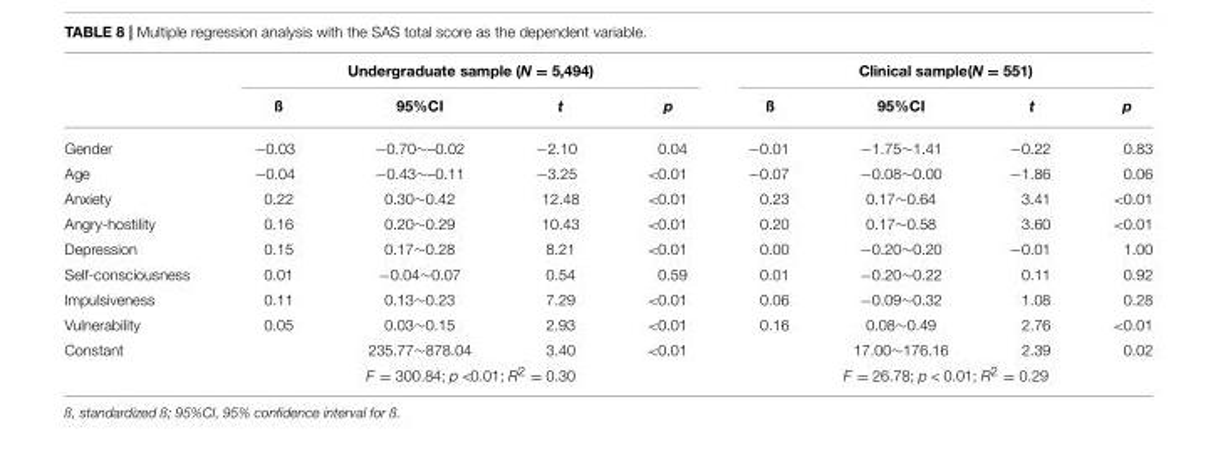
<table><thead><tr><td rowspan="2"></td><td colspan="4">Undergraduate sample (N = 5,494)</td><td colspan="4">Clinical sample(N = 551)</td></tr><tr><td>ß</td><td>95%CI</td><td>t</td><td>p</td><td>ß</td><td>95%CI</td><td>t</td><td>p</td></tr></thead><tbody><tr><td>Gender</td><td>−0.03</td><td>−0.70∼–0.02</td><td>−2.10</td><td>0.04</td><td>−0.01</td><td>−1.75∼1.41</td><td>−0.22</td><td>0.83</td></tr><tr><td>Age</td><td>−0.04</td><td>−0.43∼–0.11</td><td>−3.25</td><td>&lt;0.01</td><td>−0.07</td><td>−0.08∼0.00</td><td>−1.86</td><td>0.06</td></tr><tr><td>Anxiety</td><td>0.22</td><td>0.30∼0.42</td><td>12.48</td><td>&lt;0.01</td><td>0.23</td><td>0.17∼0.64</td><td>3.41</td><td>&lt;0.01</td></tr><tr><td>Angry-hostility</td><td>0.16</td><td>0.20∼0.29</td><td>10.43</td><td>&lt;0.01</td><td>0.20</td><td>0.17∼0.58</td><td>3.60</td><td>&lt;0.01</td></tr><tr><td>Depression</td><td>0.15</td><td>0.17∼0.28</td><td>8.21</td><td>&lt;0.01</td><td>0.00</td><td>−0.20∼0.20</td><td>−0.01</td><td>1.00</td></tr><tr><td>Self-consciousness</td><td>0.01</td><td>−0.04∼0.07</td><td>0.54</td><td>0.59</td><td>0.01</td><td>−0.20∼0.22</td><td>0.11</td><td>0.92</td></tr><tr><td>Impulsiveness</td><td>0.11</td><td>0.13∼0.23</td><td>7.29</td><td>&lt;0.01</td><td>0.06</td><td>−0.09∼0.32</td><td>1.08</td><td>0.28</td></tr><tr><td>Vulnerability</td><td>0.05</td><td>0.03∼0.15</td><td>2.93</td><td>&lt;0.01</td><td>0.16</td><td>0.08∼0.49</td><td>2.76</td><td>&lt;0.01</td></tr><tr><td rowspan="2">Constant</td><td></td><td>235.77∼878.04</td><td>3.40</td><td>&lt;0.01</td><td></td><td>17.00∼176.16</td><td>2.39</td><td>0.02</td></tr><tr><td colspan="4">F = 300.84; p &lt;0.01; R<sup>2</sup> = 0.30</td><td colspan="4">F = 26.78; p &lt; 0.01; R<sup>2</sup> = 0.29</td></tr></tbody></table>